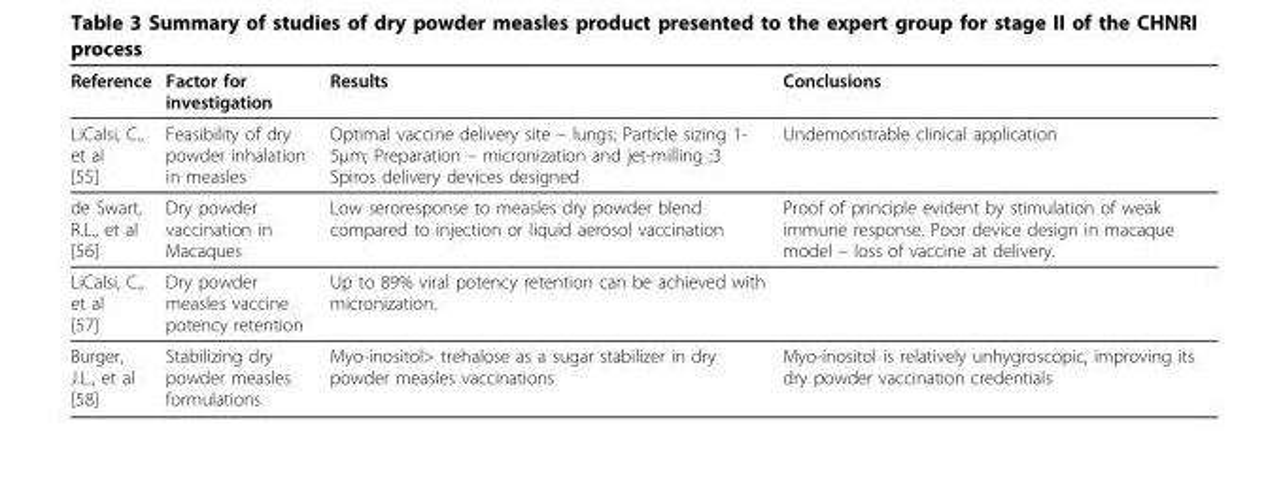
<table><thead><tr><td>Reference</td><td>Factor for investigation</td><td>Results</td><td>Conclusions</td></tr></thead><tbody><tr><td>LiCalsi, C., et al [55]</td><td>Feasibility of dry powder inhalation in measles</td><td>Optimal vaccine delivery site – lungs; Particle sizing 1- 5μm; Preparation – micronization and jet-milling ;3 Spiros delivery devices designed</td><td>Undemonstrable clinical application</td></tr><tr><td>de Swart, R.L., et al [56]</td><td>Dry powder vaccination in Macaques</td><td>Low seroresponse to measles dry powder blend compared to injection or liquid aerosol vaccination</td><td>Proof of principle evident by stimulation of weak immune response. Poor device design in macaque model – loss of vaccine at delivery.</td></tr><tr><td>LiCalsi, C., et al [57]</td><td>Dry powder measles vaccine potency retention</td><td>Up to 89% viral potency retention can be achieved with micronization.</td><td></td></tr><tr><td>Burger, J.L., et al [58]</td><td>Stabilizing dry powder measles formulations</td><td>Myo-inositol&gt; trehalose as a sugar stabilizer in dry powder measles vaccinations</td><td>Myo-inositol is relatively unhygroscopic, improving its dry powder vaccination credentials</td></tr></tbody></table>